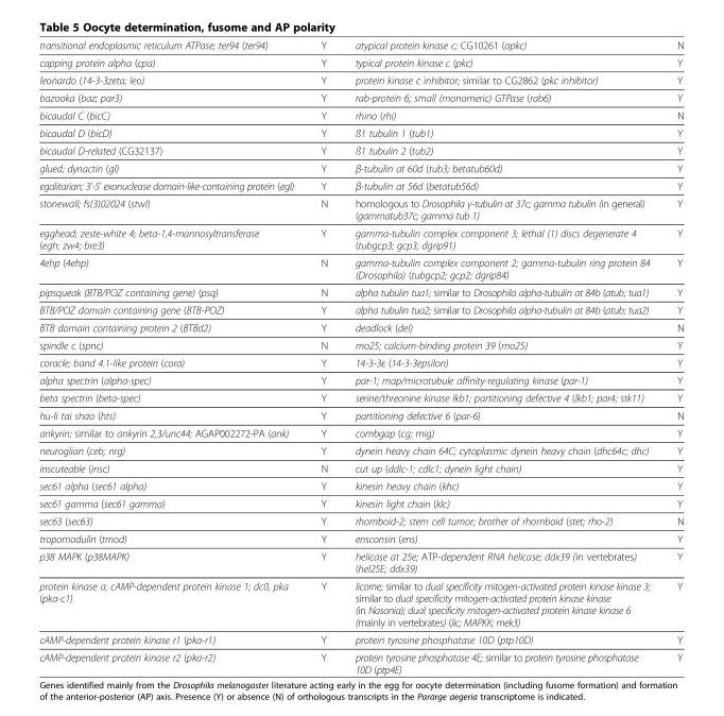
<table><tbody><tr><td>transitional endoplasmic reticulum ATPase; ter94 (ter94)</td><td>Y</td><td>atypical protein kinase c; CG10261 (apkc)</td><td>N</td></tr><tr><td>capping protein alpha (cpa)</td><td>Y</td><td>typical protein kinase c (pkc)</td><td>Y</td></tr><tr><td>leonardo (14-3-3zeta; leo)</td><td>Y</td><td>protein kinase c inhibitor; similar to CG2862 (pkc inhibitor)</td><td>Y</td></tr><tr><td>bazooka (baz; par3)</td><td>Y</td><td>rab-protein 6; small (monomeric) GTPase (rab6)</td><td>Y</td></tr><tr><td>bicaudal C (bicC)</td><td>Y</td><td>rhino (rhi)</td><td>N</td></tr><tr><td>bicaudal D (bicD)</td><td>Y</td><td>ß1 tubulin 1 (tub1)</td><td>Y</td></tr><tr><td>bicaudal D-related (CG32137)</td><td>Y</td><td>ß1 tubulin 2 (tub2)</td><td>Y</td></tr><tr><td>glued; dynactin (gl)</td><td>Y</td><td>β-tubulin at 60d (tub3; betatub60d)</td><td>Y</td></tr><tr><td>egalitarian; 3&#x27;-5&#x27; exonuclease domain-like-containing protein (egl)</td><td>Y</td><td>β-tubulin at 56d (betatub56d)</td><td>Y</td></tr><tr><td>stonewall; fs(3)02024 (stwl)</td><td>N</td><td>homologous to Drosophila γ-tubulin at 37c; gamma tubulin (in general) (gammatub37c; gamma tub 1)</td><td>Y</td></tr><tr><td>egghead; zeste-white 4; beta-1,4-mannosyltransferase (egh; zw4; bre3)</td><td>Y</td><td>gamma-tubulin complex component 3; lethal (1) discs degenerate 4 (tubgcp3; gcp3; dgrip91)</td><td>Y</td></tr><tr><td>4ehp (4ehp)</td><td>N</td><td>gamma-tubulin complex component 2; gamma-tubulin ring protein 84 (Drosophila) (tubgcp2; gcp2; dgrip84)</td><td>Y</td></tr><tr><td>pipsqueak (BTB/POZ containing gene) (psq)</td><td>N</td><td>alpha tubulin tua1; similar to Drosophila alpha-tubulin at 84b (atub; tua1)</td><td>Y</td></tr><tr><td>BTB/POZ domain containing gene (BTB-POZ)</td><td>Y</td><td>alpha tubulin tua2; similar to Drosophila alpha-tubulin at 84b (atub; tua2)</td><td>Y</td></tr><tr><td>BTB domain containing protein 2 (BTBd2)</td><td>Y</td><td>deadlock (del)</td><td>N</td></tr><tr><td>spindle c (spnc)</td><td>N</td><td>mo25; calcium-binding protein 39 (mo25)</td><td>Y</td></tr><tr><td>coracle; band 4.1-like protein (cora)</td><td>Y</td><td>14-3-3ε (14-3-3epsilon)</td><td>Y</td></tr><tr><td>alpha spectrin (alpha-spec)</td><td>Y</td><td>par-1; map/microtubule affinity-regulating kinase (par-1)</td><td>Y</td></tr><tr><td>beta spectrin (beta-spec)</td><td>Y</td><td>serine/threonine kinase lkb1; partitioning defective 4 (lkb1; par4; stk11)</td><td>Y</td></tr><tr><td>hu-li tai shao (hts)</td><td>Y</td><td>partitioning defective 6 (par-6)</td><td>N</td></tr><tr><td>ankyrin; similar to ankyrin 2,3/unc44; AGAP002272-PA (ank)</td><td>Y</td><td>combgap (cg; mig)</td><td>Y</td></tr><tr><td>neuroglian (ceb; nrg)</td><td>Y</td><td>dynein heavy chain 64C; cytoplasmic dynein heavy chain (dhc64c; dhc)</td><td>Y</td></tr><tr><td>inscuteable (insc)</td><td>N</td><td>cut up (ddlc-1; cdlc1; dynein light chain)</td><td>Y</td></tr><tr><td>sec61 alpha (sec61 alpha)</td><td>Y</td><td>kinesin heavy chain (khc)</td><td>Y</td></tr><tr><td>sec61 gamma (sec61 gamma)</td><td>Y</td><td>kinesin light chain (klc)</td><td>Y</td></tr><tr><td>sec63 (sec63)</td><td>Y</td><td>rhomboid-2; stem cell tumor; brother of rhomboid (stet; rho-2)</td><td>N</td></tr><tr><td>tropomodulin (tmod)</td><td>Y</td><td>ensconsin (ens)</td><td>Y</td></tr><tr><td>p38 MAPK (p38MAPK)</td><td>Y</td><td>helicase at 25e; ATP-dependent RNA helicase; ddx39 (in vertebrates) (hel25E; ddx39)</td><td>Y</td></tr><tr><td>protein kinase a; cAMP-dependent protein kinase 1; dc0, pka (pka-c1)</td><td>Y</td><td>licorne; similar to dual specificity mitogen-activated protein kinase kinase 3; similar to dual specificity mitogen-activated protein kinase kinase (in Nasonia); dual specificity mitogen-activated protein kinase kinase 6 (mainly in vertebrates) (lic; MAPKK; mek3)</td><td>Y</td></tr><tr><td>cAMP-dependent protein kinase r1 (pka-r1)</td><td>Y</td><td>protein tyrosine phosphatase 10D (ptp10D)</td><td>Y</td></tr><tr><td>cAMP-dependent protein kinase r2 (pka-r2)</td><td>Y</td><td>protein tyrosine phosphatase 4E; similar to protein tyrosine phosphatase 10D (ptp4E)</td><td>Y</td></tr></tbody></table>